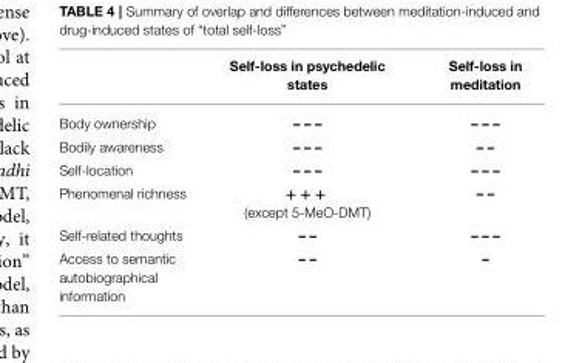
<table><thead><tr><td></td><td>Self-loss in psychedelic states</td><td>Self-loss in meditation</td></tr></thead><tbody><tr><td>Body ownership</td><td>– – –</td><td>– – –</td></tr><tr><td>Bodily awareness</td><td>– – –</td><td>– –</td></tr><tr><td>Self-location</td><td>– – –</td><td>– – –</td></tr><tr><td>Phenomenal richness</td><td>+ + + (except 5-MeO-DMT)</td><td>– –</td></tr><tr><td>Self-related thoughts</td><td>– –</td><td>– – –</td></tr><tr><td>Access to semantic autobiographical information</td><td>– –</td><td>–</td></tr></tbody></table>